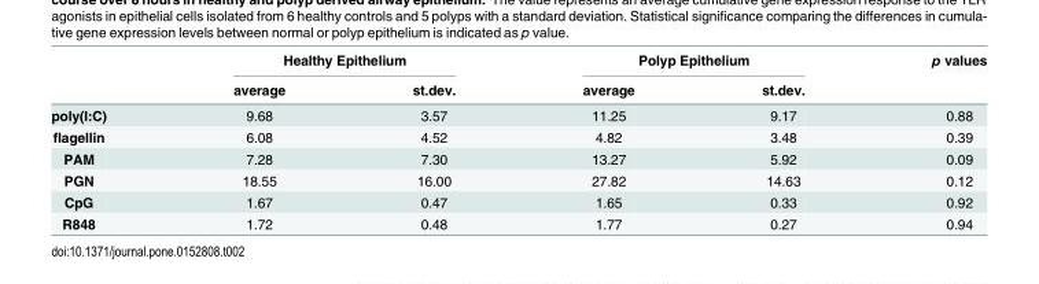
<table><thead><tr><td rowspan="2"></td><td colspan="2">Healthy Epithelium</td><td colspan="2">Polyp Epithelium</td><td rowspan="2">p values</td></tr><tr><td>average</td><td>st.dev.</td><td>average</td><td>st.dev.</td></tr></thead><tbody><tr><td>poly(I:C)</td><td>9.68</td><td>3.57</td><td>11.25</td><td>9.17</td><td>0.88</td></tr><tr><td>flagellin</td><td>6.08</td><td>4.52</td><td>4.82</td><td>3.48</td><td>0.39</td></tr><tr><td>PAM</td><td>7.28</td><td>7.30</td><td>13.27</td><td>5.92</td><td>0.09</td></tr><tr><td>PGN</td><td>18.55</td><td>16.00</td><td>27.82</td><td>14.63</td><td>0.12</td></tr><tr><td>CpG</td><td>1.67</td><td>0.47</td><td>1.65</td><td>0.33</td><td>0.92</td></tr><tr><td>R848</td><td>1.72</td><td>0.48</td><td>1.77</td><td>0.27</td><td>0.94</td></tr></tbody></table>